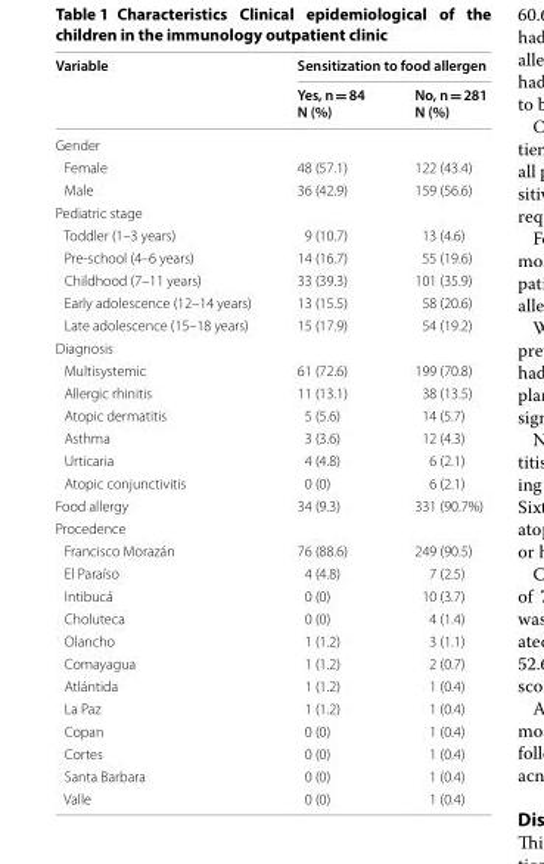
<table><thead><tr><td rowspan="2">Variable</td><td colspan="2">Sensitization to food allergen</td></tr><tr><td>Yes, n = 84 N (%)</td><td>No, n = 281 N (%)</td></tr></thead><tbody><tr><td colspan="3">Gender</td></tr><tr><td>Female</td><td>48 (57.1)</td><td>122 (43.4)</td></tr><tr><td>Male</td><td>36 (42.9)</td><td>159 (56.6)</td></tr><tr><td colspan="3">Pediatric stage</td></tr><tr><td>Toddler (1–3 years)</td><td>9 (10.7)</td><td>13 (4.6)</td></tr><tr><td>Pre‑school (4–6 years)</td><td>14 (16.7)</td><td>55 (19.6)</td></tr><tr><td>Childhood (7–11 years)</td><td>33 (39.3)</td><td>101 (35.9)</td></tr><tr><td>Early adolescence (12–14 years)</td><td>13 (15.5)</td><td>58 (20.6)</td></tr><tr><td>Late adolescence (15–18 years)</td><td>15 (17.9)</td><td>54 (19.2)</td></tr><tr><td colspan="3">Diagnosis</td></tr><tr><td>Multisystemic</td><td>61 (72.6)</td><td>199 (70.8)</td></tr><tr><td>Allergic rhinitis</td><td>11 (13.1)</td><td>38 (13.5)</td></tr><tr><td>Atopic dermatitis</td><td>5 (5.6)</td><td>14 (5.7)</td></tr><tr><td>Asthma</td><td>3 (3.6)</td><td>12 (4.3)</td></tr><tr><td>Urticaria</td><td>4 (4.8)</td><td>6 (2.1)</td></tr><tr><td>Atopic conjunctivitis</td><td>0 (0)</td><td>6 (2.1)</td></tr><tr><td>Food allergy</td><td>34 (9.3)</td><td>331 (90.7%)</td></tr><tr><td colspan="3">Procedence</td></tr><tr><td>Francisco Morazán</td><td>76 (88.6)</td><td>249 (90.5)</td></tr><tr><td>El Paraíso</td><td>4 (4.8)</td><td>7 (2.5)</td></tr><tr><td>Intibucá</td><td>0 (0)</td><td>10 (3.7)</td></tr><tr><td>Choluteca</td><td>0 (0)</td><td>4 (1.4)</td></tr><tr><td>Olancho</td><td>1 (1.2)</td><td>3 (1.1)</td></tr><tr><td>Comayagua</td><td>1 (1.2)</td><td>2 (0.7)</td></tr><tr><td>Atlántida</td><td>1 (1.2)</td><td>1 (0.4)</td></tr><tr><td>La Paz</td><td>1 (1.2)</td><td>1 (0.4)</td></tr><tr><td>Copan</td><td>0 (0)</td><td>1 (0.4)</td></tr><tr><td>Cortes</td><td>0 (0)</td><td>1 (0.4)</td></tr><tr><td>Santa Barbara</td><td>0 (0)</td><td>1 (0.4)</td></tr><tr><td>Valle</td><td>0 (0)</td><td>1 (0.4)</td></tr></tbody></table>